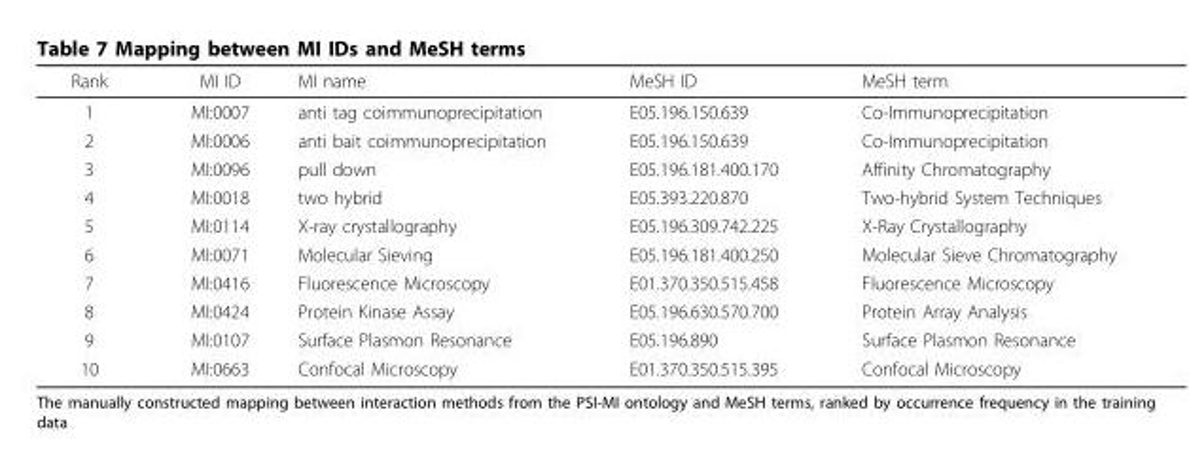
<table><thead><tr><td>Rank</td><td>MI ID</td><td>MI name</td><td>MeSH ID</td><td>MeSH term</td></tr></thead><tbody><tr><td>1</td><td>MI:0007</td><td>anti tag coimmunoprecipitation</td><td>E05.196.150.639</td><td>Co-Immunoprecipitation</td></tr><tr><td>2</td><td>MI:0006</td><td>anti bait coimmunoprecipitation</td><td>E05.196.150.639</td><td>Co-Immunoprecipitation</td></tr><tr><td>3</td><td>MI:0096</td><td>pull down</td><td>E05.196.181.400.170</td><td>Affinity Chromatography</td></tr><tr><td>4</td><td>MI:0018</td><td>two hybrid</td><td>E05.393.220.870</td><td>Two-hybrid System Techniques</td></tr><tr><td>5</td><td>MI:0114</td><td>X-ray crystallography</td><td>E05.196.309.742.225</td><td>X-Ray Crystallography</td></tr><tr><td>6</td><td>MI:0071</td><td>Molecular Sieving</td><td>E05.196.181.400.250</td><td>Molecular Sieve Chromatography</td></tr><tr><td>7</td><td>MI:0416</td><td>Fluorescence Microscopy</td><td>E01.370.350.515.458</td><td>Fluorescence Microscopy</td></tr><tr><td>8</td><td>MI:0424</td><td>Protein Kinase Assay</td><td>E05.196.630.570.700</td><td>Protein Array Analysis</td></tr><tr><td>9</td><td>MI:0107</td><td>Surface Plasmon Resonance</td><td>E05.196.890</td><td>Surface Plasmon Resonance</td></tr><tr><td>10</td><td>MI:0663</td><td>Confocal Microscopy</td><td>E01.370.350.515.395</td><td>Confocal Microscopy</td></tr></tbody></table>